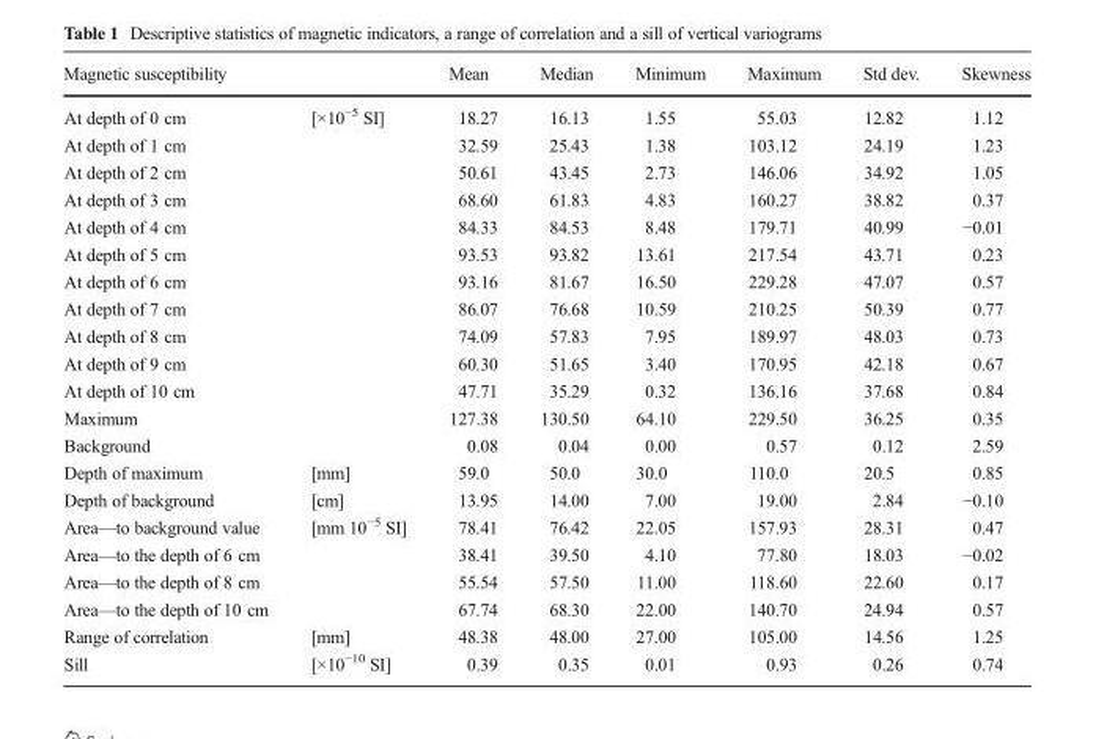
<table><thead><tr><td>Magnetic susceptibility</td><td></td><td>Mean</td><td>Median</td><td>Minimum</td><td>Maximum</td><td>Std dev.</td><td>Skewness</td></tr></thead><tbody><tr><td>At depth of 0 cm</td><td rowspan="13">[×10<sup>−5</sup> SI]</td><td>18.27</td><td>16.13</td><td>1.55</td><td>55.03</td><td>12.82</td><td>1.12</td></tr><tr><td>At depth of 1 cm</td><td>32.59</td><td>25.43</td><td>1.38</td><td>103.12</td><td>24.19</td><td>1.23</td></tr><tr><td>At depth of 2 cm</td><td>50.61</td><td>43.45</td><td>2.73</td><td>146.06</td><td>34.92</td><td>1.05</td></tr><tr><td>At depth of 3 cm</td><td>68.60</td><td>61.83</td><td>4.83</td><td>160.27</td><td>38.82</td><td>0.37</td></tr><tr><td>At depth of 4 cm</td><td>84.33</td><td>84.53</td><td>8.48</td><td>179.71</td><td>40.99</td><td>−0.01</td></tr><tr><td>At depth of 5 cm</td><td>93.53</td><td>93.82</td><td>13.61</td><td>217.54</td><td>43.71</td><td>0.23</td></tr><tr><td>At depth of 6 cm</td><td>93.16</td><td>81.67</td><td>16.50</td><td>229.28</td><td>47.07</td><td>0.57</td></tr><tr><td>At depth of 7 cm</td><td>86.07</td><td>76.68</td><td>10.59</td><td>210.25</td><td>50.39</td><td>0.77</td></tr><tr><td>At depth of 8 cm</td><td>74.09</td><td>57.83</td><td>7.95</td><td>189.97</td><td>48.03</td><td>0.73</td></tr><tr><td>At depth of 9 cm</td><td>60.30</td><td>51.65</td><td>3.40</td><td>170.95</td><td>42.18</td><td>0.67</td></tr><tr><td>At depth of 10 cm</td><td>47.71</td><td>35.29</td><td>0.32</td><td>136.16</td><td>37.68</td><td>0.84</td></tr><tr><td>Maximum</td><td>127.38</td><td>130.50</td><td>64.10</td><td>229.50</td><td>36.25</td><td>0.35</td></tr><tr><td>Background</td><td>0.08</td><td>0.04</td><td>0.00</td><td>0.57</td><td>0.12</td><td>2.59</td></tr><tr><td>Depth of maximum</td><td>[mm]</td><td>59.0</td><td>50.0</td><td>30.0</td><td>110.0</td><td>20.5</td><td>0.85</td></tr><tr><td>Depth of background</td><td>[cm]</td><td>13.95</td><td>14.00</td><td>7.00</td><td>19.00</td><td>2.84</td><td>−0.10</td></tr><tr><td>Area—to background value</td><td rowspan="4">[mm 10<sup>−5</sup> SI]</td><td>78.41</td><td>76.42</td><td>22.05</td><td>157.93</td><td>28.31</td><td>0.47</td></tr><tr><td>Area—to the depth of 6 cm</td><td>38.41</td><td>39.50</td><td>4.10</td><td>77.80</td><td>18.03</td><td>−0.02</td></tr><tr><td>Area—to the depth of 8 cm</td><td>55.54</td><td>57.50</td><td>11.00</td><td>118.60</td><td>22.60</td><td>0.17</td></tr><tr><td>Area—to the depth of 10 cm</td><td>67.74</td><td>68.30</td><td>22.00</td><td>140.70</td><td>24.94</td><td>0.57</td></tr><tr><td>Range of correlation</td><td>[mm]</td><td>48.38</td><td>48.00</td><td>27.00</td><td>105.00</td><td>14.56</td><td>1.25</td></tr><tr><td>Sill</td><td>[×10<sup>−10</sup> SI]</td><td>0.39</td><td>0.35</td><td>0.01</td><td>0.93</td><td>0.26</td><td>0.74</td></tr></tbody></table>